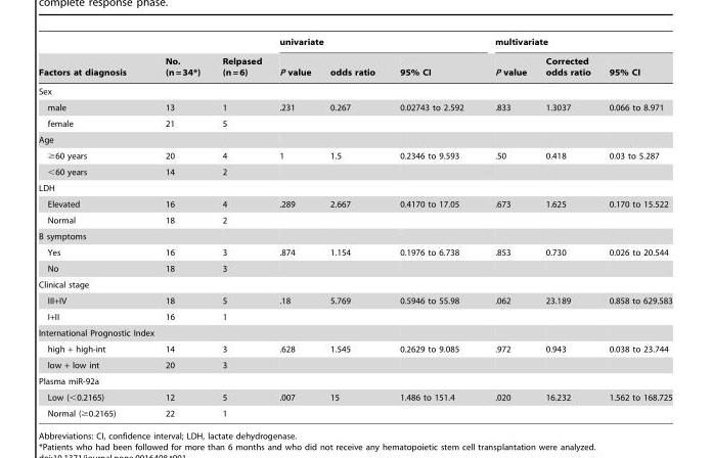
<table><thead><tr><td rowspan="2">Factors at diagnosis</td><td rowspan="2">No. (n = 34*)</td><td rowspan="2">Relpased (n = 6)</td><td colspan="3">univariate</td><td colspan="3">multivariate</td></tr><tr><td>P value</td><td>odds ratio</td><td>95% CI</td><td>P value</td><td>Corrected odds ratio</td><td>95% CI</td></tr></thead><tbody><tr><td colspan="9">Sex</td></tr><tr><td>male</td><td>13</td><td>1</td><td>.231</td><td>0.267</td><td>0.02743 to 2.592</td><td>.833</td><td>1.3037</td><td>0.066 to 8.971</td></tr><tr><td>female</td><td>21</td><td>5</td><td></td><td></td><td></td><td></td><td></td><td></td></tr><tr><td colspan="9">Age</td></tr><tr><td>≥60 years</td><td>20</td><td>4</td><td>1</td><td>1.5</td><td>0.2346 to 9.593</td><td>.50</td><td>0.418</td><td>0.03 to 5.287</td></tr><tr><td>&lt;60 years</td><td>14</td><td>2</td><td></td><td></td><td></td><td></td><td></td><td></td></tr><tr><td colspan="9">LDH</td></tr><tr><td>Elevated</td><td>16</td><td>4</td><td>.289</td><td>2.667</td><td>0.4170 to 17.05</td><td>.673</td><td>1.625</td><td>0.170 to 15.522</td></tr><tr><td>Normal</td><td>18</td><td>2</td><td></td><td></td><td></td><td></td><td></td><td></td></tr><tr><td colspan="9">B symptoms</td></tr><tr><td>Yes</td><td>16</td><td>3</td><td>.874</td><td>1.154</td><td>0.1976 to 6.738</td><td>.853</td><td>0.730</td><td>0.026 to 20.544</td></tr><tr><td>No</td><td>18</td><td>3</td><td></td><td></td><td></td><td></td><td></td><td></td></tr><tr><td colspan="9">Clinical stage</td></tr><tr><td>III+IV</td><td>18</td><td>5</td><td>.18</td><td>5.769</td><td>0.5946 to 55.98</td><td>.062</td><td>23.189</td><td>0.858 to 629.583</td></tr><tr><td>I+II</td><td>16</td><td>1</td><td></td><td></td><td></td><td></td><td></td><td></td></tr><tr><td colspan="9">International Prognostic Index</td></tr><tr><td>high + high-int</td><td>14</td><td>3</td><td>.628</td><td>1.545</td><td>0.2629 to 9.085</td><td>.972</td><td>0.943</td><td>0.038 to 23.744</td></tr><tr><td>low + low int</td><td>20</td><td>3</td><td></td><td></td><td></td><td></td><td></td><td></td></tr><tr><td colspan="9">Plasma miR-92a</td></tr><tr><td>Low (&lt;0.2165)</td><td>12</td><td>5</td><td>.007</td><td>15</td><td>1.486 to 151.4</td><td>.020</td><td>16.232</td><td>1.562 to 168.725</td></tr><tr><td>Normal (≥0.2165)</td><td>22</td><td>1</td><td></td><td></td><td></td><td></td><td></td><td></td></tr></tbody></table>